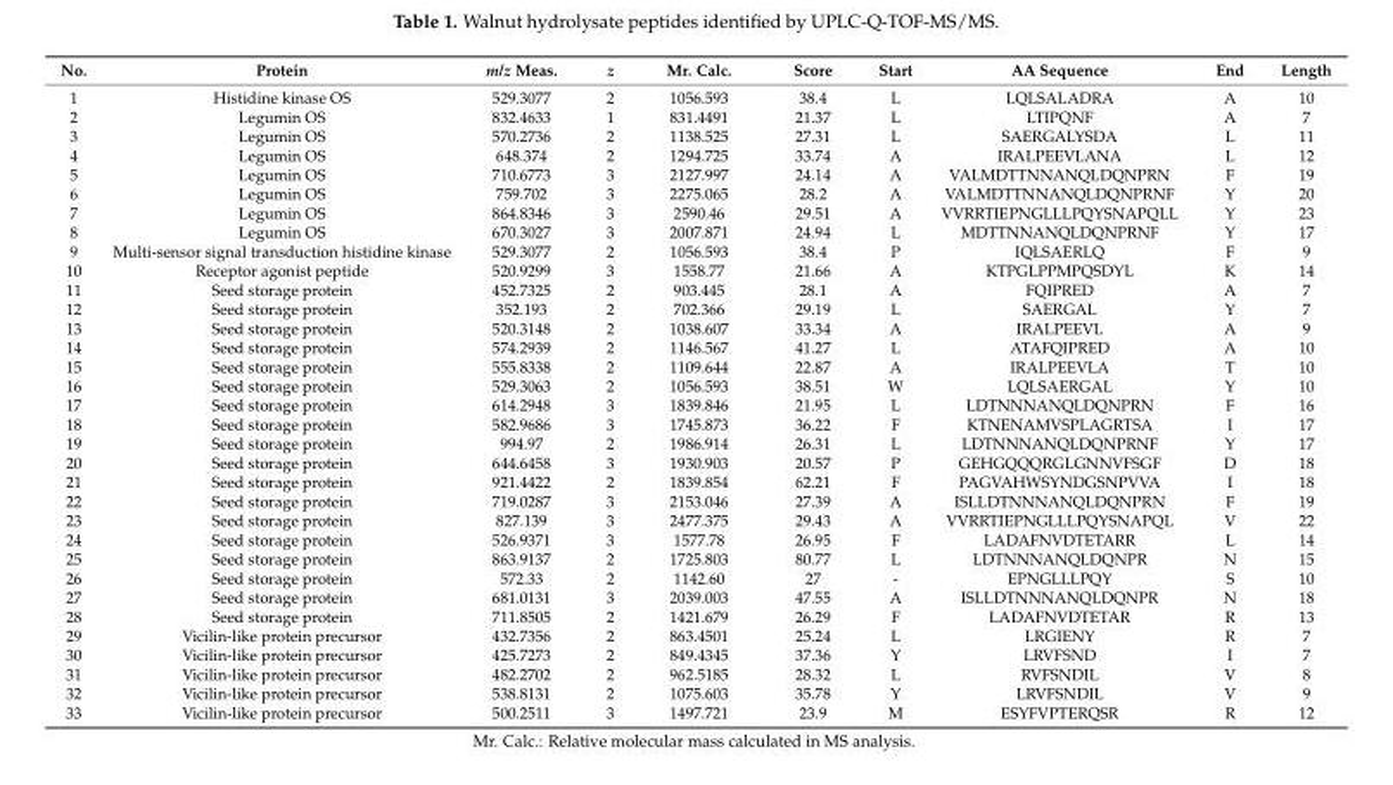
<table><thead><tr><td>No.</td><td>Protein</td><td>m/z Meas.</td><td>z</td><td>Mr. Calc.</td><td>Score</td><td>Start</td><td>AA Sequence</td><td>End</td><td>Length</td></tr></thead><tbody><tr><td>1</td><td>Histidine kinase OS</td><td>529.3077</td><td>2</td><td>1056.593</td><td>38.4</td><td>L</td><td>LQLSALADRA</td><td>A</td><td>10</td></tr><tr><td>2</td><td>Legumin OS</td><td>832.4633</td><td>1</td><td>831.4491</td><td>21.37</td><td>L</td><td>LTIPQNF</td><td>A</td><td>7</td></tr><tr><td>3</td><td>Legumin OS</td><td>570.2736</td><td>2</td><td>1138.525</td><td>27.31</td><td>L</td><td>SAERGALYSDA</td><td>L</td><td>11</td></tr><tr><td>4</td><td>Legumin OS</td><td>648.374</td><td>2</td><td>1294.725</td><td>33.74</td><td>A</td><td>IRALPEEVLANA</td><td>L</td><td>12</td></tr><tr><td>5</td><td>Legumin OS</td><td>710.6773</td><td>3</td><td>2127.997</td><td>24.14</td><td>A</td><td>VALMDTTNNANQLDQNPRN</td><td>F</td><td>19</td></tr><tr><td>6</td><td>Legumin OS</td><td>759.702</td><td>3</td><td>2275.065</td><td>28.2</td><td>A</td><td>VALMDTTNNANQLDQNPRNF</td><td>Y</td><td>20</td></tr><tr><td>7</td><td>Legumin OS</td><td>864.8346</td><td>3</td><td>2590.46</td><td>29.51</td><td>A</td><td>VVRRTIEPNGLLLPQYSNAPQLL</td><td>Y</td><td>23</td></tr><tr><td>8</td><td>Legumin OS</td><td>670.3027</td><td>3</td><td>2007.871</td><td>24.94</td><td>L</td><td>MDTTNNANQLDQNPRNF</td><td>Y</td><td>17</td></tr><tr><td>9</td><td>Multi-sensor signal transduction histidine kinase</td><td>529.3077</td><td>2</td><td>1056.593</td><td>38.4</td><td>P</td><td>IQLSAERLQ</td><td>F</td><td>9</td></tr><tr><td>10</td><td>Receptor agonist peptide</td><td>520.9299</td><td>3</td><td>1558.77</td><td>21.66</td><td>A</td><td>KTPGLPPMPQSDYL</td><td>K</td><td>14</td></tr><tr><td>11</td><td>Seed storage protein</td><td>452.7325</td><td>2</td><td>903.445</td><td>28.1</td><td>A</td><td>FQIPRED</td><td>A</td><td>7</td></tr><tr><td>12</td><td>Seed storage protein</td><td>352.193</td><td>2</td><td>702.366</td><td>29.19</td><td>L</td><td>SAERGAL</td><td>Y</td><td>7</td></tr><tr><td>13</td><td>Seed storage protein</td><td>520.3148</td><td>2</td><td>1038.607</td><td>33.34</td><td>A</td><td>IRALPEEVL</td><td>A</td><td>9</td></tr><tr><td>14</td><td>Seed storage protein</td><td>574.2939</td><td>2</td><td>1146.567</td><td>41.27</td><td>L</td><td>ATAFQIPRED</td><td>A</td><td>10</td></tr><tr><td>15</td><td>Seed storage protein</td><td>555.8338</td><td>2</td><td>1109.644</td><td>22.87</td><td>A</td><td>IRALPEEVLA</td><td>T</td><td>10</td></tr><tr><td>16</td><td>Seed storage protein</td><td>529.3063</td><td>2</td><td>1056.593</td><td>38.51</td><td>W</td><td>LQLSAERGAL</td><td>Y</td><td>10</td></tr><tr><td>17</td><td>Seed storage protein</td><td>614.2948</td><td>3</td><td>1839.846</td><td>21.95</td><td>L</td><td>LDTNNNANQLDQNPRN</td><td>F</td><td>16</td></tr><tr><td>18</td><td>Seed storage protein</td><td>582.9686</td><td>3</td><td>1745.873</td><td>36.22</td><td>F</td><td>KTNENAMVSPLAGRTSA</td><td>I</td><td>17</td></tr><tr><td>19</td><td>Seed storage protein</td><td>994.97</td><td>2</td><td>1986.914</td><td>26.31</td><td>L</td><td>LDTNNNANQLDQNPRNF</td><td>Y</td><td>17</td></tr><tr><td>20</td><td>Seed storage protein</td><td>644.6458</td><td>3</td><td>1930.903</td><td>20.57</td><td>P</td><td>GEHGQQQRGLGNNVFSGF</td><td>D</td><td>18</td></tr><tr><td>21</td><td>Seed storage protein</td><td>921.4422</td><td>2</td><td>1839.854</td><td>62.21</td><td>F</td><td>PAGVAHWSYNDGSNPVVA</td><td>I</td><td>18</td></tr><tr><td>22</td><td>Seed storage protein</td><td>719.0287</td><td>3</td><td>2153.046</td><td>27.39</td><td>A</td><td>ISLLDTNNNANQLDQNPRN</td><td>F</td><td>19</td></tr><tr><td>23</td><td>Seed storage protein</td><td>827.139</td><td>3</td><td>2477.375</td><td>29.43</td><td>A</td><td>VVRRTIEPNGLLLPQYSNAPQL</td><td>V</td><td>22</td></tr><tr><td>24</td><td>Seed storage protein</td><td>526.9371</td><td>3</td><td>1577.78</td><td>26.95</td><td>F</td><td>LADAFNVDTETARR</td><td>L</td><td>14</td></tr><tr><td>25</td><td>Seed storage protein</td><td>863.9137</td><td>2</td><td>1725.803</td><td>80.77</td><td>L</td><td>LDTNNNANQLDQNPR</td><td>N</td><td>15</td></tr><tr><td>26</td><td>Seed storage protein</td><td>572.33</td><td>2</td><td>1142.60</td><td>27</td><td>-</td><td>EPNGLLLPQY</td><td>S</td><td>10</td></tr><tr><td>27</td><td>Seed storage protein</td><td>681.0131</td><td>3</td><td>2039.003</td><td>47.55</td><td>A</td><td>ISLLDTNNNANQLDQNPR</td><td>N</td><td>18</td></tr><tr><td>28</td><td>Seed storage protein</td><td>711.8505</td><td>2</td><td>1421.679</td><td>26.29</td><td>F</td><td>LADAFNVDTETAR</td><td>R</td><td>13</td></tr><tr><td>29</td><td>Vicilin-like protein precursor</td><td>432.7356</td><td>2</td><td>863.4501</td><td>25.24</td><td>L</td><td>LRGIENY</td><td>R</td><td>7</td></tr><tr><td>30</td><td>Vicilin-like protein precursor</td><td>425.7273</td><td>2</td><td>849.4345</td><td>37.36</td><td>Y</td><td>LRVFSND</td><td>I</td><td>7</td></tr><tr><td>31</td><td>Vicilin-like protein precursor</td><td>482.2702</td><td>2</td><td>962.5185</td><td>28.32</td><td>L</td><td>RVFSNDIL</td><td>V</td><td>8</td></tr><tr><td>32</td><td>Vicilin-like protein precursor</td><td>538.8131</td><td>2</td><td>1075.603</td><td>35.78</td><td>Y</td><td>LRVFSNDIL</td><td>V</td><td>9</td></tr><tr><td>33</td><td>Vicilin-like protein precursor</td><td>500.2511</td><td>3</td><td>1497.721</td><td>23.9</td><td>M</td><td>ESYFVPTERQSR</td><td>R</td><td>12</td></tr></tbody></table>